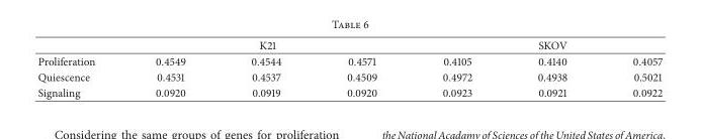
<table><thead><tr><td rowspan="2">Proliferation</td><td colspan="3">K21</td><td colspan="3">SKOV</td></tr><tr><td>0.4549</td><td>0.4544</td><td>0.4571</td><td>0.4105</td><td>0.4140</td><td>0.4057</td></tr></thead><tbody><tr><td>Quiescence</td><td>0.4531</td><td>0.4537</td><td>0.4509</td><td>0.4972</td><td>0.4938</td><td>0.5021</td></tr><tr><td>Signaling</td><td>0.0920</td><td>0.0919</td><td>0.0920</td><td>0.0923</td><td>0.0921</td><td>0.0922</td></tr></tbody></table>